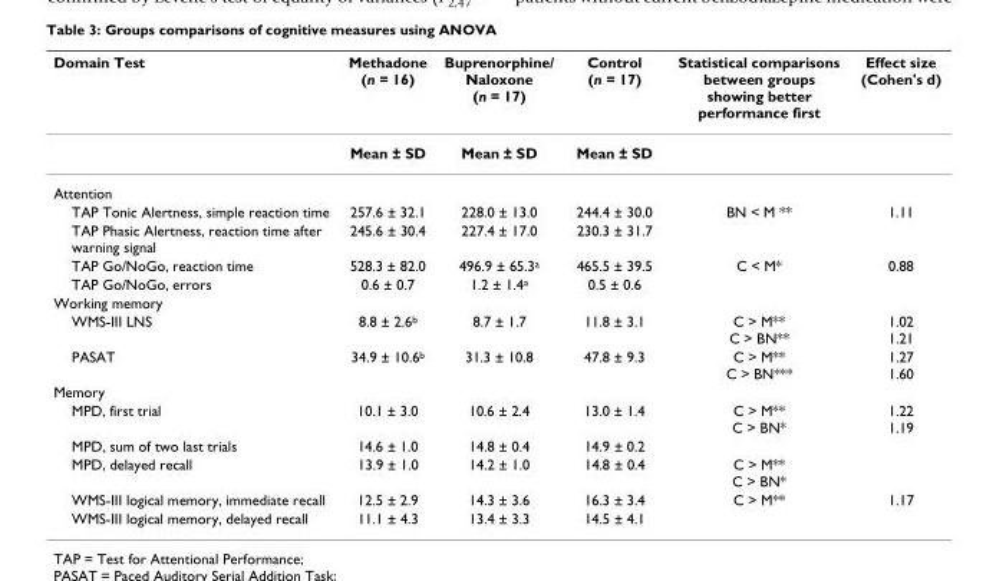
<table><thead><tr><td>Domain Test</td><td>Methadone (n = 16)</td><td>Buprenorphine/ Naloxone (n = 17)</td><td>Control (n = 17)</td><td>Statistical comparisons between groups showing better performance first</td><td>Effect size (Cohen&#x27;s d)</td></tr></thead><tbody><tr><td></td><td>Mean ± SD</td><td>Mean ± SD</td><td>Mean ± SD</td><td></td><td></td></tr><tr><td colspan="6">Attention</td></tr><tr><td>TAP Tonic Alertness, simple reaction time</td><td>257.6 ± 32.1</td><td>228.0 ± 13.0</td><td>244.4 ± 30.0</td><td>BN &lt; M **</td><td>1.11</td></tr><tr><td>TAP Phasic Alertness, reaction time after warning signal</td><td>245.6 ± 30.4</td><td>227.4 ± 17.0</td><td>230.3 ± 31.7</td><td></td><td></td></tr><tr><td>TAP Go/NoGo, reaction time</td><td>528.3 ± 82.0</td><td>496.9 ± 65.3<sup>a</sup></td><td>465.5 ± 39.5</td><td>C &lt; M*</td><td>0.88</td></tr><tr><td>TAP Go/NoGo, errors</td><td>0.6 ± 0.7</td><td>1.2 ± 1.4<sup>a</sup></td><td>0.5 ± 0.6</td><td></td><td></td></tr><tr><td colspan="6">Working memory</td></tr><tr><td>WMS-III LNS</td><td>8.8 ± 2.6<sup>b</sup></td><td>8.7 ± 1.7</td><td>11.8 ± 3.1</td><td>C &gt; M** C &gt; BN**</td><td>1.02 1.21</td></tr><tr><td>PASAT</td><td>34.9 ± 10.6<sup>b</sup></td><td>31.3 ± 10.8</td><td>47.8 ± 9.3</td><td>C &gt; M** C &gt; BN***</td><td>1.27 1.60</td></tr><tr><td colspan="6">Memory</td></tr><tr><td>MPD, first trial</td><td>10.1 ± 3.0</td><td>10.6 ± 2.4</td><td>13.0 ± 1.4</td><td>C &gt; M** C &gt; BN*</td><td>1.22 1.19</td></tr><tr><td>MPD, sum of two last trials</td><td>14.6 ± 1.0</td><td>14.8 ± 0.4</td><td>14.9 ± 0.2</td><td></td><td></td></tr><tr><td>MPD, delayed recall</td><td>13.9 ± 1.0</td><td>14.2 ± 1.0</td><td>14.8 ± 0.4</td><td>C &gt; M** C &gt; BN*</td><td></td></tr><tr><td>WMS-III logical memory, immediate recall</td><td>12.5 ± 2.9</td><td>14.3 ± 3.6</td><td>16.3 ± 3.4</td><td>C &gt; M**</td><td>1.17</td></tr><tr><td>WMS-III logical memory, delayed recall</td><td>11.1 ± 4.3</td><td>13.4 ± 3.3</td><td>14.5 ± 4.1</td><td></td><td></td></tr></tbody></table>